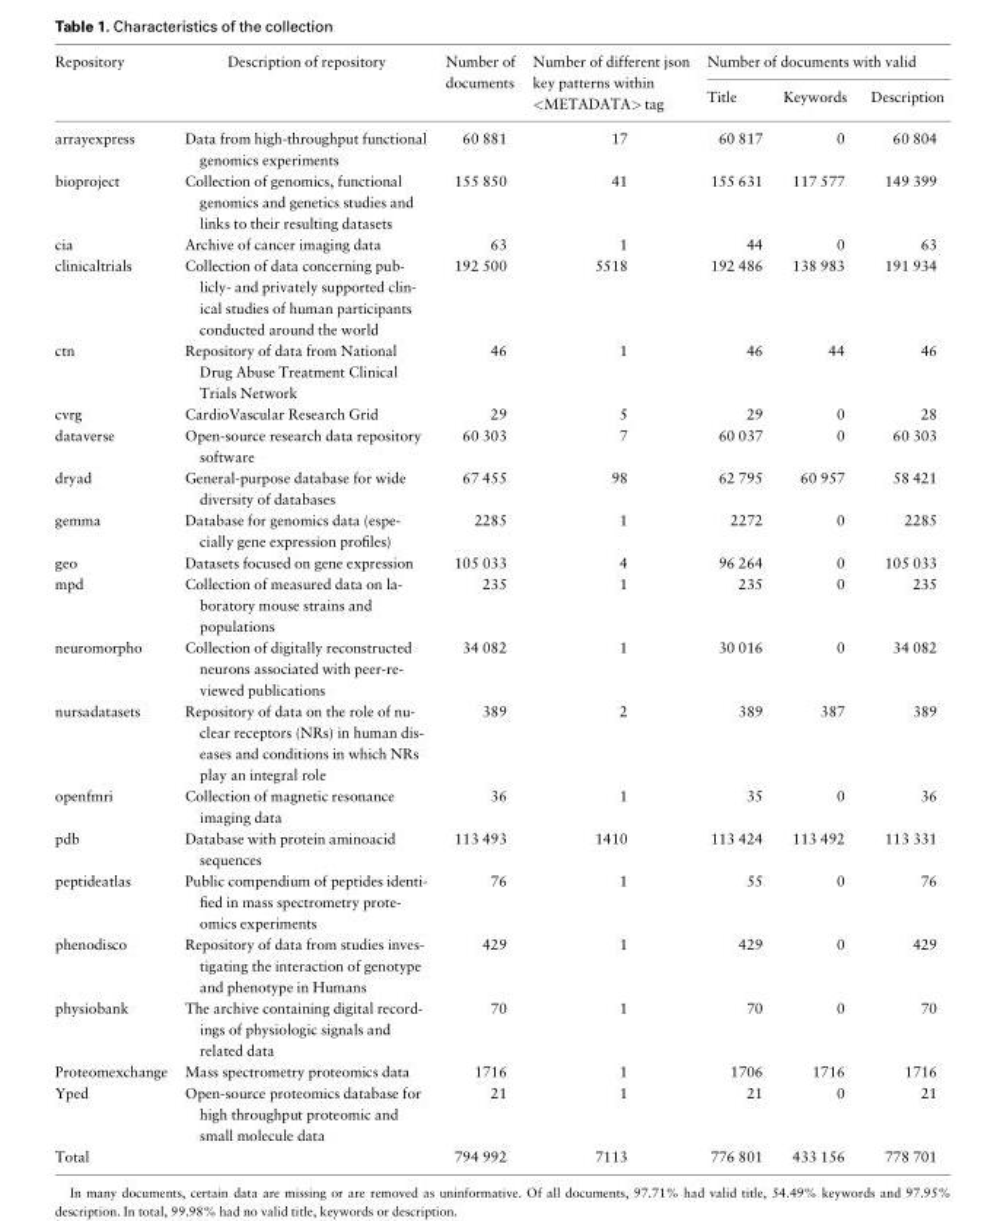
<table><thead><tr><td rowspan="2">Repository</td><td rowspan="2">Description of repository</td><td rowspan="2">Number of documents</td><td rowspan="2">Number of different json key patterns within &lt;METADATA&gt; tag</td><td colspan="3">Number of documents with valid</td></tr><tr><td>Title</td><td>Keywords</td><td>Description</td></tr></thead><tbody><tr><td>arrayexpress</td><td>Data from high-throughput functional genomics experiments</td><td>60 881</td><td>17</td><td>60 817</td><td>0</td><td>60 804</td></tr><tr><td>bioproject</td><td>Collection of genomics, functional genomics and genetics studies and links to their resulting datasets</td><td>155 850</td><td>41</td><td>155 631</td><td>117 577</td><td>149 399</td></tr><tr><td>cia</td><td>Archive of cancer imaging data</td><td>63</td><td>1</td><td>44</td><td>0</td><td>63</td></tr><tr><td>clinicaltrials</td><td>Collection of data concerning pub- licly- and privately supported clin- ical studies of human participants conducted around the world</td><td>192 500</td><td>5518</td><td>192 486</td><td>138 983</td><td>191 934</td></tr><tr><td>ctn</td><td>Repository of data from National Drug Abuse Treatment Clinical Trials Network</td><td>46</td><td>1</td><td>46</td><td>44</td><td>46</td></tr><tr><td>cvrg</td><td>CardioVascular Research Grid</td><td>29</td><td>5</td><td>29</td><td>0</td><td>28</td></tr><tr><td>dataverse</td><td>Open-source research data repository software</td><td>60 303</td><td>7</td><td>60 037</td><td>0</td><td>60 303</td></tr><tr><td>dryad</td><td>General-purpose database for wide diversity of databases</td><td>67 455</td><td>98</td><td>62 795</td><td>60 957</td><td>58 421</td></tr><tr><td>gemma</td><td>Database for genomics data (espe- cially gene expression profiles)</td><td>2285</td><td>1</td><td>2272</td><td>0</td><td>2285</td></tr><tr><td>geo</td><td>Datasets focused on gene expression</td><td>105 033</td><td>4</td><td>96 264</td><td>0</td><td>105 033</td></tr><tr><td>mpd</td><td>Collection of measured data on la- boratory mouse strains and populations</td><td>235</td><td>1</td><td>235</td><td>0</td><td>235</td></tr><tr><td>neuromorpho</td><td>Collection of digitally reconstructed neurons associated with peer-re- viewed publications</td><td>34 082</td><td>1</td><td>30 016</td><td>0</td><td>34 082</td></tr><tr><td>nursadatasets</td><td>Repository of data on the role of nu- clear receptors (NRs) in human dis- eases and conditions in which NRs play an integral role</td><td>389</td><td>2</td><td>389</td><td>387</td><td>389</td></tr><tr><td>openfmri</td><td>Collection of magnetic resonance imaging data</td><td>36</td><td>1</td><td>35</td><td>0</td><td>36</td></tr><tr><td>pdb</td><td>Database with protein aminoacid sequences</td><td>113 493</td><td>1410</td><td>113 424</td><td>113 492</td><td>113 331</td></tr><tr><td>peptideatlas</td><td>Public compendium of peptides identi- fied in mass spectrometry prote- omics experiments</td><td>76</td><td>1</td><td>55</td><td>0</td><td>76</td></tr><tr><td>phenodisco</td><td>Repository of data from studies inves- tigating the interaction of genotype and phenotype in Humans</td><td>429</td><td>1</td><td>429</td><td>0</td><td>429</td></tr><tr><td>physiobank</td><td>The archive containing digital record- ings of physiologic signals and related data</td><td>70</td><td>1</td><td>70</td><td>0</td><td>70</td></tr><tr><td>Proteomexchange</td><td>Mass spectrometry proteomics data</td><td>1716</td><td>1</td><td>1706</td><td>1716</td><td>1716</td></tr><tr><td>Yped</td><td>Open-source proteomics database for high throughput proteomic and small molecule data</td><td>21</td><td>1</td><td>21</td><td>0</td><td>21</td></tr><tr><td>Total</td><td></td><td>794 992</td><td>7113</td><td>776 801</td><td>433 156</td><td>778 701</td></tr></tbody></table>